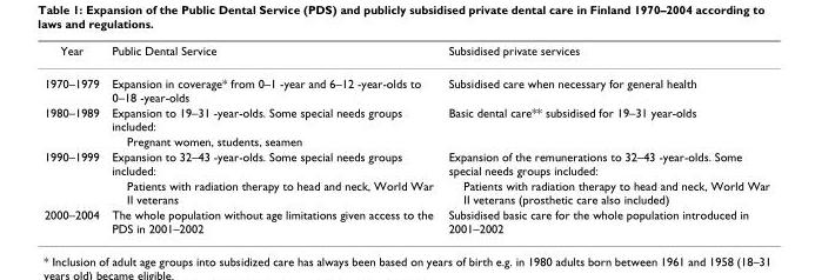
<table><thead><tr><td>Year</td><td>Public Dental Service</td><td>Subsidised private services</td></tr></thead><tbody><tr><td>1970–1979</td><td>Expansion in coverage* from 0–1 -year and 6–12 -year-olds to 0–18 -year-olds</td><td>Subsidised care when necessary for general health</td></tr><tr><td rowspan="2">1980–1989</td><td>Expansion to 19–31 -year-olds. Some special needs groups included:</td><td>Basic dental care** subsidised for 19–31 year-olds</td></tr><tr><td>Pregnant women, students, seamen</td><td></td></tr><tr><td rowspan="2">1990–1999</td><td>Expansion to 32–43 -year-olds. Some special needs groups included:</td><td>Expansion of the remunerations to 32–43 -year-olds. Some special needs groups included:</td></tr><tr><td>Patients with radiation therapy to head and neck, World War II veterans</td><td>Patients with radiation therapy to head and neck, World War II veterans (prosthetic care also included)</td></tr><tr><td>2000–2004</td><td>The whole population without age limitations given access to the PDS in 2001–2002</td><td>Subsidised basic care for the whole population introduced in 2001–2002</td></tr></tbody></table>